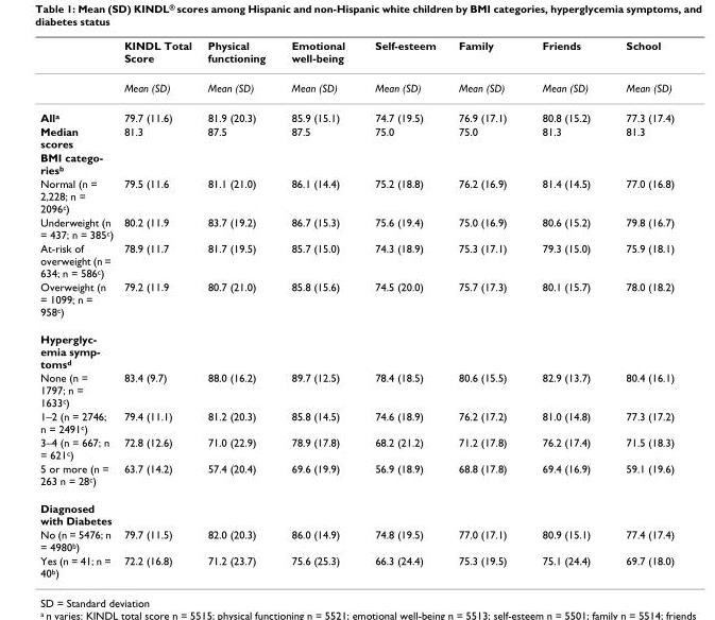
<table><thead><tr><td></td><td>KINDL Total Score</td><td>Physical functioning</td><td>Emotional well-being</td><td>Self-esteem</td><td>Family</td><td>Friends</td><td>School</td></tr></thead><tbody><tr><td></td><td>Mean (SD)</td><td>Mean (SD)</td><td>Mean (SD)</td><td>Mean (SD)</td><td>Mean (SD)</td><td>Mean (SD)</td><td>Mean (SD)</td></tr><tr><td>All<sup>a</sup></td><td>79.7 (11.6)</td><td>81.9 (20.3)</td><td>85.9 (15.1)</td><td>74.7 (19.5)</td><td>76.9 (17.1)</td><td>80.8 (15.2)</td><td>77.3 (17.4)</td></tr><tr><td>Median scores</td><td>81.3</td><td>87.5</td><td>87.5</td><td>75.0</td><td>75.0</td><td>81.3</td><td>81.3</td></tr><tr><td colspan="8">BMI catego- riesb</td></tr><tr><td>Normal (n = 2,228; n = 2096<sup>c</sup>)</td><td>79.5 (11.6</td><td>81.1 (21.0)</td><td>86.1 (14.4)</td><td>75.2 (18.8)</td><td>76.2 (16.9)</td><td>81.4 (14.5)</td><td>77.0 (16.8)</td></tr><tr><td>Underweight (n = 437; n = 385<sup>c</sup>)</td><td>80.2 (11.9</td><td>83.7 (19.2)</td><td>86.7 (15.3)</td><td>75.6 (19.4)</td><td>75.0 (16.9)</td><td>80.6 (15.2)</td><td>79.8 (16.7)</td></tr><tr><td>At-risk of overweight (n = 634; n = 586<sup>c</sup>)</td><td>78.9 (11.7</td><td>81.7 (19.5)</td><td>85.7 (15.0)</td><td>74.3 (18.9)</td><td>75.3 (17.1)</td><td>79.3 (15.0)</td><td>75.9 (18.1)</td></tr><tr><td>Overweight (n = 1099; n = 958<sup>c</sup>)</td><td>79.2 (11.9</td><td>80.7 (21.0)</td><td>85.8 (15.6)</td><td>74.5 (20.0)</td><td>75.7 (17.3)</td><td>80.1 (15.7)</td><td>78.0 (18.2)</td></tr><tr><td colspan="8">Hyperglyc- emia symp- tomsd</td></tr><tr><td>None (n = 1797; n = 1633<sup>c</sup>)</td><td>83.4 (9.7)</td><td>88.0 (16.2)</td><td>89.7 (12.5)</td><td>78.4 (18.5)</td><td>80.6 (15.5)</td><td>82.9 (13.7)</td><td>80.4 (16.1)</td></tr><tr><td>1–2 (n = 2746; n = 2491<sup>c</sup>)</td><td>79.4 (11.1)</td><td>81.2 (20.3)</td><td>85.8 (14.5)</td><td>74.6 (18.9)</td><td>76.2 (17.2)</td><td>81.0 (14.8)</td><td>77.3 (17.2)</td></tr><tr><td>3–4 (n = 667; n = 621<sup>c</sup>)</td><td>72.8 (12.6)</td><td>71.0 (22.9)</td><td>78.9 (17.8)</td><td>68.2 (21.2)</td><td>71.2 (17.8)</td><td>76.2 (17.4)</td><td>71.5 (18.3)</td></tr><tr><td>5 or more (n = 263 n = 28<sup>c</sup>)</td><td>63.7 (14.2)</td><td>57.4 (20.4)</td><td>69.6 (19.9)</td><td>56.9 (18.9)</td><td>68.8 (17.8)</td><td>69.4 (16.9)</td><td>59.1 (19.6)</td></tr><tr><td colspan="8">Diagnosed with Diabetes</td></tr><tr><td>No (n = 5476; n = 4980<sup>b</sup>)</td><td>79.7 (11.5)</td><td>82.0 (20.3)</td><td>86.0 (14.9)</td><td>74.8 (19.5)</td><td>77.0 (17.1)</td><td>80.9 (15.1)</td><td>77.4 (17.4)</td></tr><tr><td>Yes (n = 41; n = 40<sup>b</sup>)</td><td>72.2 (16.8)</td><td>71.2 (23.7)</td><td>75.6 (25.3)</td><td>66.3 (24.4)</td><td>75.3 (19.5)</td><td>75.1 (24.4)</td><td>69.7 (18.0)</td></tr></tbody></table>